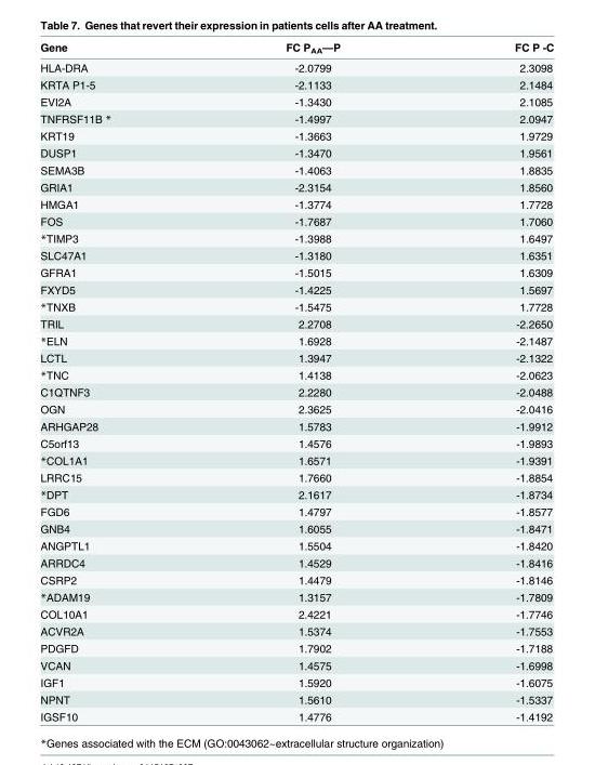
<table><thead><tr><td>Gene</td><td>FC P<sub>AA</sub>—P</td><td>FC P -C</td></tr></thead><tbody><tr><td>HLA-DRA</td><td>-2.0799</td><td>2.3098</td></tr><tr><td>KRTA P1-5</td><td>-2.1133</td><td>2.1484</td></tr><tr><td>EVI2A</td><td>-1.3430</td><td>2.1085</td></tr><tr><td>TNFRSF11B *</td><td>-1.4997</td><td>2.0947</td></tr><tr><td>KRT19</td><td>-1.3663</td><td>1.9729</td></tr><tr><td>DUSP1</td><td>-1.3470</td><td>1.9561</td></tr><tr><td>SEMA3B</td><td>-1.4063</td><td>1.8835</td></tr><tr><td>GRIA1</td><td>-2.3154</td><td>1.8560</td></tr><tr><td>HMGA1</td><td>-1.3774</td><td>1.7728</td></tr><tr><td>FOS</td><td>-1.7687</td><td>1.7060</td></tr><tr><td>*TIMP3</td><td>-1.3988</td><td>1.6497</td></tr><tr><td>SLC47A1</td><td>-1.3180</td><td>1.6351</td></tr><tr><td>GFRA1</td><td>-1.5015</td><td>1.6309</td></tr><tr><td>FXYD5</td><td>-1.4225</td><td>1.5697</td></tr><tr><td>*TNXB</td><td>-1.5475</td><td>1.7728</td></tr><tr><td>TRIL</td><td>2.2708</td><td>-2.2650</td></tr><tr><td>*ELN</td><td>1.6928</td><td>-2.1487</td></tr><tr><td>LCTL</td><td>1.3947</td><td>-2.1322</td></tr><tr><td>*TNC</td><td>1.4138</td><td>-2.0623</td></tr><tr><td>C1QTNF3</td><td>2.2280</td><td>-2.0488</td></tr><tr><td>OGN</td><td>2.3625</td><td>-2.0416</td></tr><tr><td>ARHGAP28</td><td>1.5783</td><td>-1.9912</td></tr><tr><td>C5orf13</td><td>1.4576</td><td>-1.9893</td></tr><tr><td>*COL1A1</td><td>1.6571</td><td>-1.9391</td></tr><tr><td>LRRC15</td><td>1.7660</td><td>-1.8854</td></tr><tr><td>*DPT</td><td>2.1617</td><td>-1.8734</td></tr><tr><td>FGD6</td><td>1.4797</td><td>-1.8577</td></tr><tr><td>GNB4</td><td>1.6055</td><td>-1.8471</td></tr><tr><td>ANGPTL1</td><td>1.5504</td><td>-1.8420</td></tr><tr><td>ARRDC4</td><td>1.4529</td><td>-1.8416</td></tr><tr><td>CSRP2</td><td>1.4479</td><td>-1.8146</td></tr><tr><td>*ADAM19</td><td>1.3157</td><td>-1.7809</td></tr><tr><td>COL10A1</td><td>2.4221</td><td>-1.7746</td></tr><tr><td>ACVR2A</td><td>1.5374</td><td>-1.7553</td></tr><tr><td>PDGFD</td><td>1.7902</td><td>-1.7188</td></tr><tr><td>VCAN</td><td>1.4575</td><td>-1.6998</td></tr><tr><td>IGF1</td><td>1.5920</td><td>-1.6075</td></tr><tr><td>NPNT</td><td>1.5610</td><td>-1.5337</td></tr><tr><td>IGSF10</td><td>1.4776</td><td>-1.4192</td></tr></tbody></table>